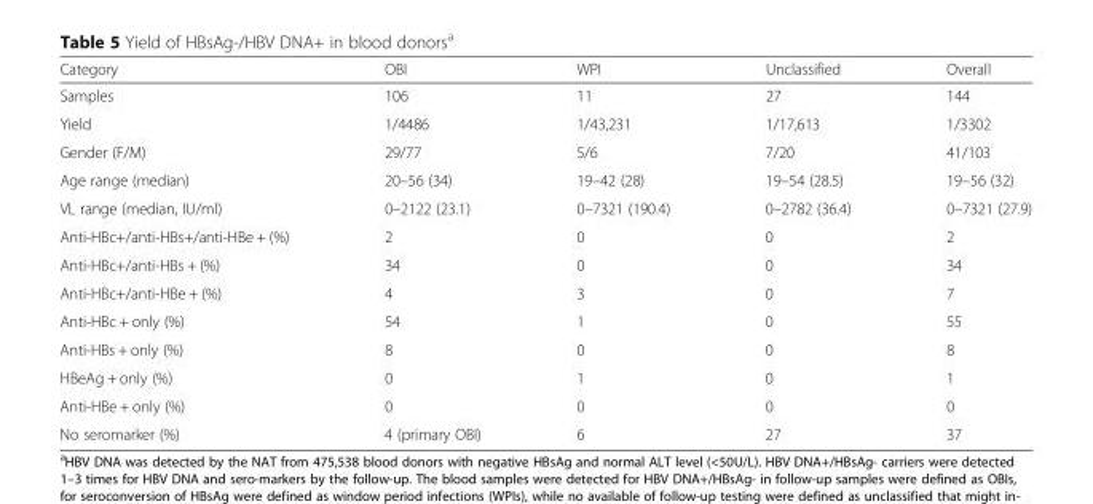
<table><thead><tr><td>Category</td><td>OBI</td><td>WPI</td><td>Unclassified</td><td>Overall</td></tr></thead><tbody><tr><td>Samples</td><td>106</td><td>11</td><td>27</td><td>144</td></tr><tr><td>Yield</td><td>1/4486</td><td>1/43,231</td><td>1/17,613</td><td>1/3302</td></tr><tr><td>Gender (F/M)</td><td>29/77</td><td>5/6</td><td>7/20</td><td>41/103</td></tr><tr><td>Age range (median)</td><td>20–56 (34)</td><td>19–42 (28)</td><td>19–54 (28.5)</td><td>19–56 (32)</td></tr><tr><td>VL range (median, IU/ml)</td><td>0–2122 (23.1)</td><td>0–7321 (190.4)</td><td>0–2782 (36.4)</td><td>0–7321 (27.9)</td></tr><tr><td>Anti-HBc+/anti-HBs+/anti-HBe + (%)</td><td>2</td><td>0</td><td>0</td><td>2</td></tr><tr><td>Anti-HBc+/anti-HBs + (%)</td><td>34</td><td>0</td><td>0</td><td>34</td></tr><tr><td>Anti-HBc+/anti-HBe + (%)</td><td>4</td><td>3</td><td>0</td><td>7</td></tr><tr><td>Anti-HBc + only (%)</td><td>54</td><td>1</td><td>0</td><td>55</td></tr><tr><td>Anti-HBs + only (%)</td><td>8</td><td>0</td><td>0</td><td>8</td></tr><tr><td>HBeAg + only (%)</td><td>0</td><td>1</td><td>0</td><td>1</td></tr><tr><td>Anti-HBe + only (%)</td><td>0</td><td>0</td><td>0</td><td>0</td></tr><tr><td>No seromarker (%)</td><td>4 (primary OBI)</td><td>6</td><td>27</td><td>37</td></tr></tbody></table>